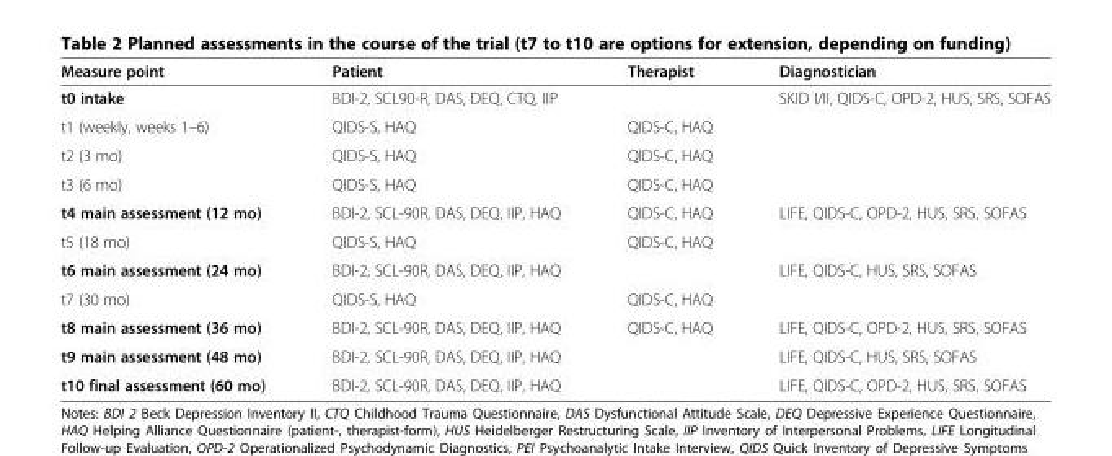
<table><thead><tr><td>Measure point</td><td>Patient</td><td>Therapist</td><td>Diagnostician</td></tr></thead><tbody><tr><td>t0 intake</td><td>BDI-2, SCL90-R, DAS, DEQ, CTQ, IIP</td><td></td><td>SKID I/II, QIDS-C, OPD-2, HUS, SRS, SOFAS</td></tr><tr><td>t1 (weekly, weeks 1–6)</td><td>QIDS-S, HAQ</td><td>QIDS-C, HAQ</td><td></td></tr><tr><td>t2 (3 mo)</td><td>QIDS-S, HAQ</td><td>QIDS-C, HAQ</td><td></td></tr><tr><td>t3 (6 mo)</td><td>QIDS-S, HAQ</td><td>QIDS-C, HAQ</td><td></td></tr><tr><td>t4 main assessment (12 mo)</td><td>BDI-2, SCL-90R, DAS, DEQ, IIP, HAQ</td><td>QIDS-C, HAQ</td><td>LIFE, QIDS-C, OPD-2, HUS, SRS, SOFAS</td></tr><tr><td>t5 (18 mo)</td><td>QIDS-S, HAQ</td><td>QIDS-C, HAQ</td><td></td></tr><tr><td>t6 main assessment (24 mo)</td><td>BDI-2, SCL-90R, DAS, DEQ, IIP, HAQ</td><td></td><td>LIFE, QIDS-C, HUS, SRS, SOFAS</td></tr><tr><td>t7 (30 mo)</td><td>QIDS-S, HAQ</td><td>QIDS-C, HAQ</td><td></td></tr><tr><td>t8 main assessment (36 mo)</td><td>BDI-2, SCL-90R, DAS, DEQ, IIP, HAQ</td><td>QIDS-C, HAQ</td><td>LIFE, QIDS-C, OPD-2, HUS, SRS, SOFAS</td></tr><tr><td>t9 main assessment (48 mo)</td><td>BDI-2, SCL-90R, DAS, DEQ, IIP, HAQ</td><td></td><td>LIFE, QIDS-C, HUS, SRS, SOFAS</td></tr><tr><td>t10 final assessment (60 mo)</td><td>BDI-2, SCL-90R, DAS, DEQ, IIP, HAQ</td><td></td><td>LIFE, QIDS-C, OPD-2, HUS, SRS, SOFAS</td></tr></tbody></table>